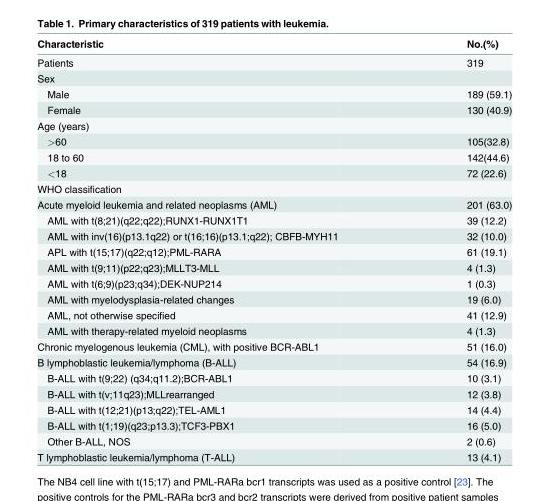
<table><thead><tr><td>Characteristic</td><td>No.(%)</td></tr></thead><tbody><tr><td>Patients</td><td>319</td></tr><tr><td colspan="2">Sex</td></tr><tr><td>Male</td><td>189 (59.1)</td></tr><tr><td>Female</td><td>130 (40.9)</td></tr><tr><td colspan="2">Age (years)</td></tr><tr><td>&gt;60</td><td>105(32.8)</td></tr><tr><td>18 to 60</td><td>142(44.6)</td></tr><tr><td>&lt;18</td><td>72 (22.6)</td></tr><tr><td colspan="2">WHO classification</td></tr><tr><td>Acute myeloid leukemia and related neoplasms (AML)</td><td>201 (63.0)</td></tr><tr><td>AML with t(8;21)(q22;q22);RUNX1-RUNX1T1</td><td>39 (12.2)</td></tr><tr><td>AML with inv(16)(p13.1q22) or t(16;16)(p13.1;q22); CBFB-MYH11</td><td>32 (10.0)</td></tr><tr><td>APL with t(15;17)(q22;q12);PML-RARA</td><td>61 (19.1)</td></tr><tr><td>AML with t(9;11)(p22;q23);MLLT3-MLL</td><td>4 (1.3)</td></tr><tr><td>AML with t(6;9)(p23;q34);DEK-NUP214</td><td>1 (0.3)</td></tr><tr><td>AML with myelodysplasia-related changes</td><td>19 (6.0)</td></tr><tr><td>AML, not otherwise specified</td><td>41 (12.9)</td></tr><tr><td>AML with therapy-related myeloid neoplasms</td><td>4 (1.3)</td></tr><tr><td>Chronic myelogenous leukemia (CML), with positive BCR-ABL1</td><td>51 (16.0)</td></tr><tr><td>B lymphoblastic leukemia/lymphoma (B-ALL)</td><td>54 (16.9)</td></tr><tr><td>B-ALL with t(9;22) (q34;q11.2);BCR-ABL1</td><td>10 (3.1)</td></tr><tr><td>B-ALL with t(v;11q23);MLLrearranged</td><td>12 (3.8)</td></tr><tr><td>B-ALL with t(12;21)(p13;q22);TEL-AML1</td><td>14 (4.4)</td></tr><tr><td>B-ALL with t(1;19)(q23;p13.3);TCF3-PBX1</td><td>16 (5.0)</td></tr><tr><td>Other B-ALL, NOS</td><td>2 (0.6)</td></tr><tr><td>T lymphoblastic leukemia/lymphoma (T-ALL)</td><td>13 (4.1)</td></tr></tbody></table>